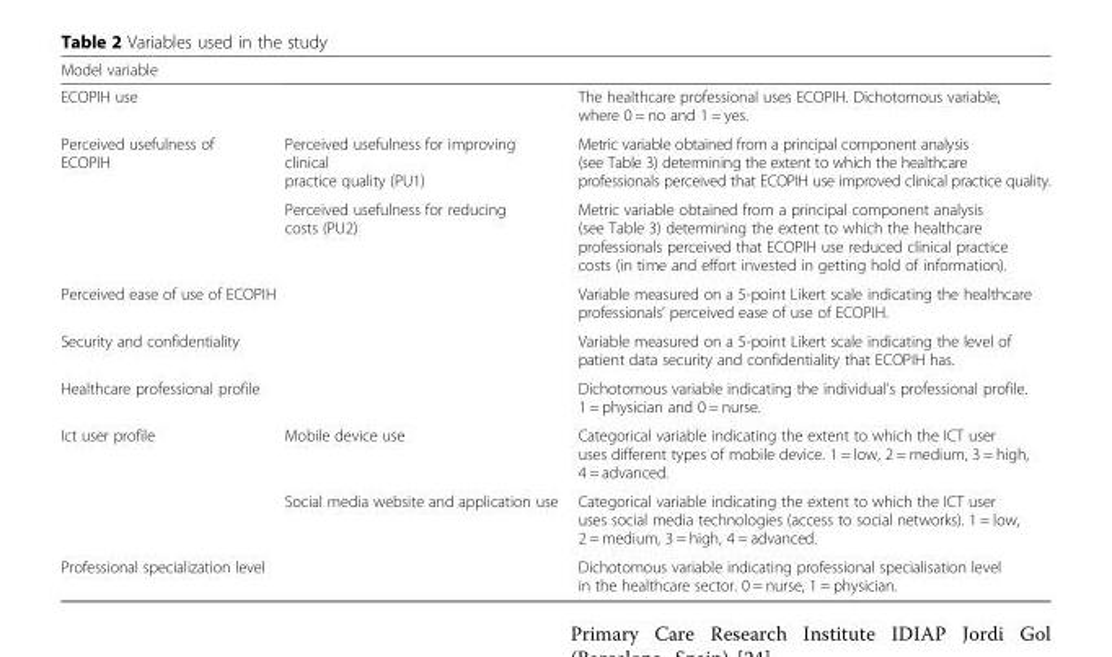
<table><thead><tr><td>Model variable</td><td></td><td></td></tr></thead><tbody><tr><td colspan="2">ECOPIH use</td><td>The healthcare professional uses ECOPIH. Dichotomous variable, where 0 = no and 1 = yes.</td></tr><tr><td rowspan="2">Perceived usefulness of ECOPIH</td><td>Perceived usefulness for improving clinical practice quality (PU1)</td><td>Metric variable obtained from a principal component analysis (see Table 3) determining the extent to which the healthcare professionals perceived that ECOPIH use improved clinical practice quality.</td></tr><tr><td>Perceived usefulness for reducing costs (PU2)</td><td>Metric variable obtained from a principal component analysis (see Table 3) determining the extent to which the healthcare professionals perceived that ECOPIH use reduced clinical practice costs (in time and effort invested in getting hold of information).</td></tr><tr><td colspan="2">Perceived ease of use of ECOPIH</td><td>Variable measured on a 5-point Likert scale indicating the healthcare professionals’ perceived ease of use of ECOPIH.</td></tr><tr><td colspan="2">Security and confidentiality</td><td>Variable measured on a 5-point Likert scale indicating the level of patient data security and confidentiality that ECOPIH has.</td></tr><tr><td colspan="2">Healthcare professional profile</td><td>Dichotomous variable indicating the individual’s professional profile. 1 = physician and 0 = nurse.</td></tr><tr><td rowspan="2">Ict user profile</td><td>Mobile device use</td><td>Categorical variable indicating the extent to which the ICT user uses different types of mobile device. 1 = low, 2 = medium, 3 = high, 4 = advanced.</td></tr><tr><td>Social media website and application use</td><td>Categorical variable indicating the extent to which the ICT user uses social media technologies (access to social networks). 1 = low, 2 = medium, 3 = high, 4 = advanced.</td></tr><tr><td>Professional specialization level</td><td></td><td>Dichotomous variable indicating professional specialisation level in the healthcare sector. 0 = nurse, 1 = physician.</td></tr></tbody></table>